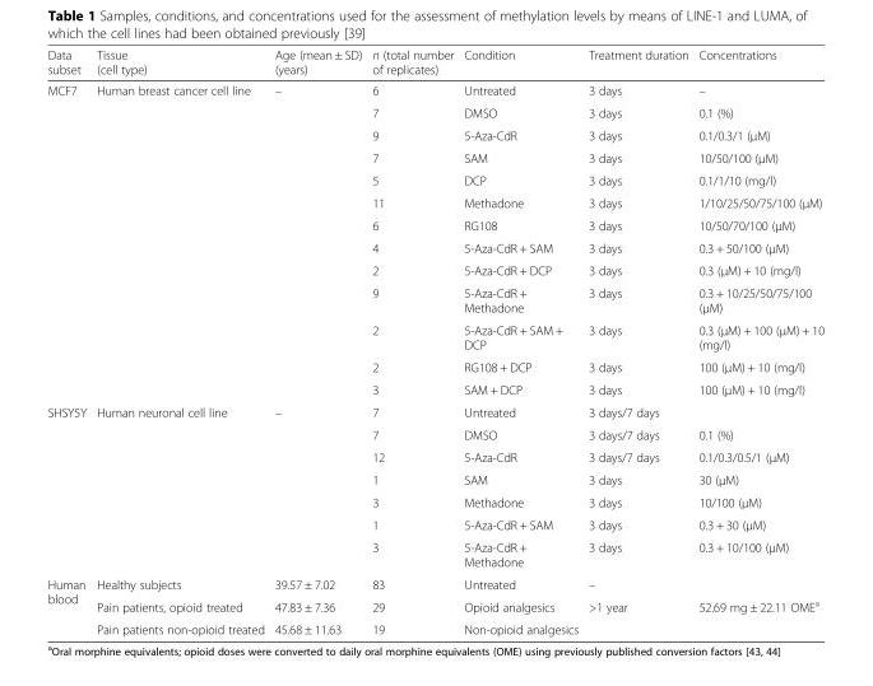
<table><thead><tr><td>Data subset</td><td>Tissue (cell type)</td><td>Age (mean ± SD) (years)</td><td>n (total number of replicates)</td><td>Condition</td><td>Treatment duration</td><td>Concentrations</td></tr></thead><tbody><tr><td rowspan="13">MCF7</td><td rowspan="13">Human breast cancer cell line</td><td rowspan="13">–</td><td>6</td><td>Untreated</td><td>3 days</td><td>–</td></tr><tr><td>7</td><td>DMSO</td><td>3 days</td><td>0.1 (%)</td></tr><tr><td>9</td><td>5-Aza-CdR</td><td>3 days</td><td>0.1/0.3/1 (μM)</td></tr><tr><td>7</td><td>SAM</td><td>3 days</td><td>10/50/100 (μM)</td></tr><tr><td>5</td><td>DCP</td><td>3 days</td><td>0.1/1/10 (mg/l)</td></tr><tr><td>11</td><td>Methadone</td><td>3 days</td><td>1/10/25/50/75/100 (μM)</td></tr><tr><td>6</td><td>RG108</td><td>3 days</td><td>10/50/70/100 (μM)</td></tr><tr><td>4</td><td>5-Aza-CdR + SAM</td><td>3 days</td><td>0.3 + 50/100 (μM)</td></tr><tr><td>2</td><td>5-Aza-CdR + DCP</td><td>3 days</td><td>0.3 (μM) + 10 (mg/l)</td></tr><tr><td>9</td><td>5-Aza-CdR + Methadone</td><td>3 days</td><td>0.3 + 10/25/50/75/100 (μM)</td></tr><tr><td>2</td><td>5-Aza-CdR + SAM + DCP</td><td>3 days</td><td>0.3 (μM) + 100 (μM) + 10 (mg/l)</td></tr><tr><td>2</td><td>RG108 + DCP</td><td>3 days</td><td>100 (μM) + 10 (mg/l)</td></tr><tr><td>3</td><td>SAM + DCP</td><td>3 days</td><td>100 (μM) + 10 (mg/l)</td></tr><tr><td rowspan="7">SHSY5Y</td><td rowspan="7">Human neuronal cell line</td><td rowspan="7">–</td><td>7</td><td>Untreated</td><td>3 days/7 days</td><td></td></tr><tr><td>7</td><td>DMSO</td><td>3 days/7 days</td><td>0.1 (%)</td></tr><tr><td>12</td><td>5-Aza-CdR</td><td>3 days/7 days</td><td>0.1/0.3/0.5/1 (μM)</td></tr><tr><td>1</td><td>SAM</td><td>3 days</td><td>30 (μM)</td></tr><tr><td>3</td><td>Methadone</td><td>3 days</td><td>10/100 (μM)</td></tr><tr><td>1</td><td>5-Aza-CdR + SAM</td><td>3 days</td><td>0.3 + 30 (μM)</td></tr><tr><td>3</td><td>5-Aza-CdR + Methadone</td><td>3 days</td><td>0.3 + 10/100 (μM)</td></tr><tr><td rowspan="3">Human blood</td><td>Healthy subjects</td><td>39.57 ± 7.02</td><td>83</td><td>Untreated</td><td>–</td><td></td></tr><tr><td>Pain patients, opioid treated</td><td>47.83 ± 7.36</td><td>29</td><td>Opioid analgesics</td><td>&gt;1 year</td><td>52.69 mg ± 22.11 OME<sup>a</sup></td></tr><tr><td>Pain patients non-opioid treated</td><td>45.68 ± 11.63</td><td>19</td><td>Non-opioid analgesics</td><td></td><td></td></tr></tbody></table>